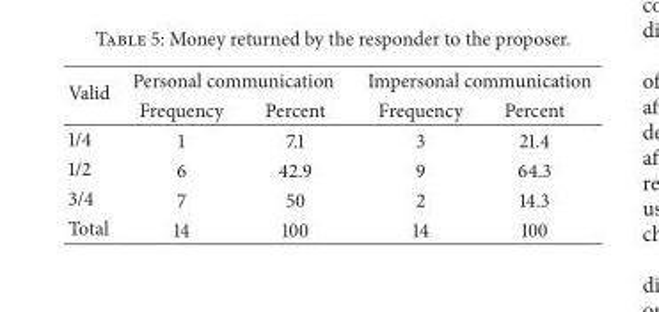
<table><thead><tr><td rowspan="2">Valid</td><td colspan="2">Personal communication</td><td colspan="2">Impersonal communication</td></tr><tr><td>Frequency</td><td>Percent</td><td>Frequency</td><td>Percent</td></tr></thead><tbody><tr><td>1/4</td><td>1</td><td>7.1</td><td>3</td><td>21.4</td></tr><tr><td>1/2</td><td>6</td><td>42.9</td><td>9</td><td>64.3</td></tr><tr><td>3/4</td><td>7</td><td>50</td><td>2</td><td>14.3</td></tr><tr><td>Total</td><td>14</td><td>100</td><td>14</td><td>100</td></tr></tbody></table>